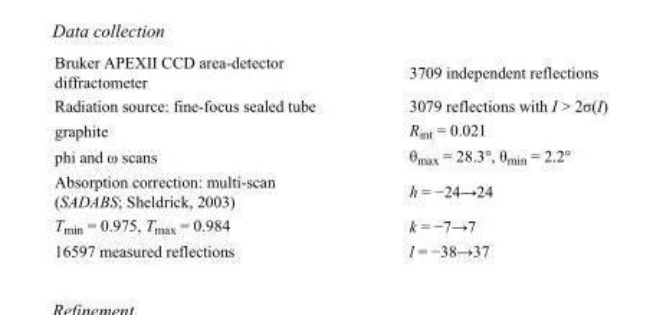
<table><tbody><tr><td>Bruker APEXII CCD area-detector diffractometer</td><td>3709 independent reflections</td></tr><tr><td>Radiation source: fine-focus sealed tube</td><td>3079 reflections with I &gt; 2σ(I)</td></tr><tr><td>graphite</td><td>R<sub>int</sub> = 0.021</td></tr><tr><td>phi and ω scans</td><td>θ<sub>max</sub> = 28.3°, θ<sub>min</sub> = 2.2°</td></tr><tr><td>Absorption correction: multi-scan (SADABS; Sheldrick, 2003)</td><td>h = −24→24</td></tr><tr><td>T<sub>min</sub> = 0.975, T<sub>max</sub> = 0.984</td><td>k = −7→7</td></tr><tr><td>16597 measured reflections</td><td>l = −38→37</td></tr></tbody></table>